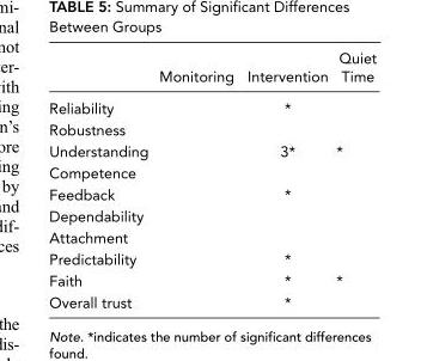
<table><thead><tr><td></td><td>Monitoring</td><td>Intervention</td><td>Quiet Time</td></tr></thead><tbody><tr><td>Reliability</td><td></td><td>*</td><td></td></tr><tr><td colspan="4">Robustness</td></tr><tr><td>Understanding</td><td></td><td>3*</td><td>*</td></tr><tr><td colspan="4">Competence</td></tr><tr><td>Feedback</td><td></td><td>*</td><td></td></tr><tr><td colspan="4">Dependability</td></tr><tr><td colspan="4">Attachment</td></tr><tr><td>Predictability</td><td></td><td>*</td><td></td></tr><tr><td>Faith</td><td></td><td>*</td><td>*</td></tr><tr><td>Overall trust</td><td></td><td>*</td><td></td></tr></tbody></table>